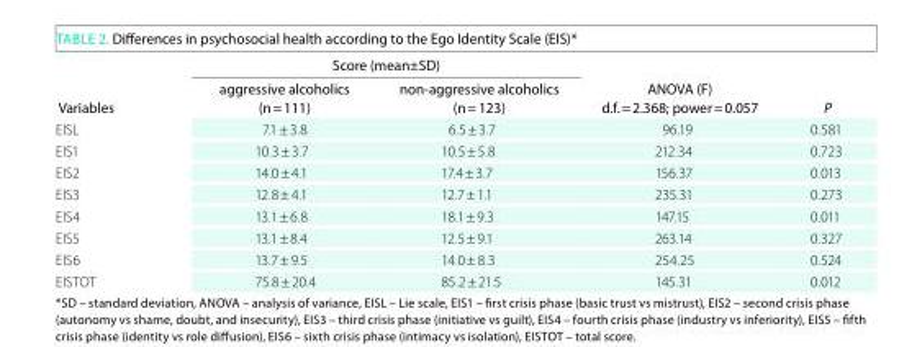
<table><thead><tr><td rowspan="2">Variables</td><td colspan="2">Score (mean±SD)</td><td rowspan="2">anoVa (F) d.f. = 2.368; power = 0.057</td><td rowspan="2">P</td></tr><tr><td>aggressive alcoholics (n = 111)</td><td>non-aggressive alcoholics (n = 123)</td></tr></thead><tbody><tr><td>EISL</td><td>7.1 ± 3.8</td><td>6.5 ± 3.7</td><td>96.19</td><td>0.581</td></tr><tr><td>EIS1</td><td>10.3 ± 3.7</td><td>10.5 ± 5.8</td><td>212.34</td><td>0.723</td></tr><tr><td>EIS2</td><td>14.0 ± 4.1</td><td>17.4 ± 3.7</td><td>156.37</td><td>0.013</td></tr><tr><td>EIS3</td><td>12.8 ± 4.1</td><td>12.7 ± 1.1</td><td>235.31</td><td>0.273</td></tr><tr><td>EIS4</td><td>13.1 ± 6.8</td><td>18.1 ± 9.3</td><td>147.15</td><td>0.011</td></tr><tr><td>EIS5</td><td>13.1 ± 8.4</td><td>12.5 ± 9.1</td><td>263.14</td><td>0.327</td></tr><tr><td>EIS6</td><td>13.7 ± 9.5</td><td>14.0 ± 8.3</td><td>254.25</td><td>0.524</td></tr><tr><td>EISTOT</td><td>75.8 ± 20.4</td><td>85.2 ± 21.5</td><td>145.31</td><td>0.012</td></tr></tbody></table>